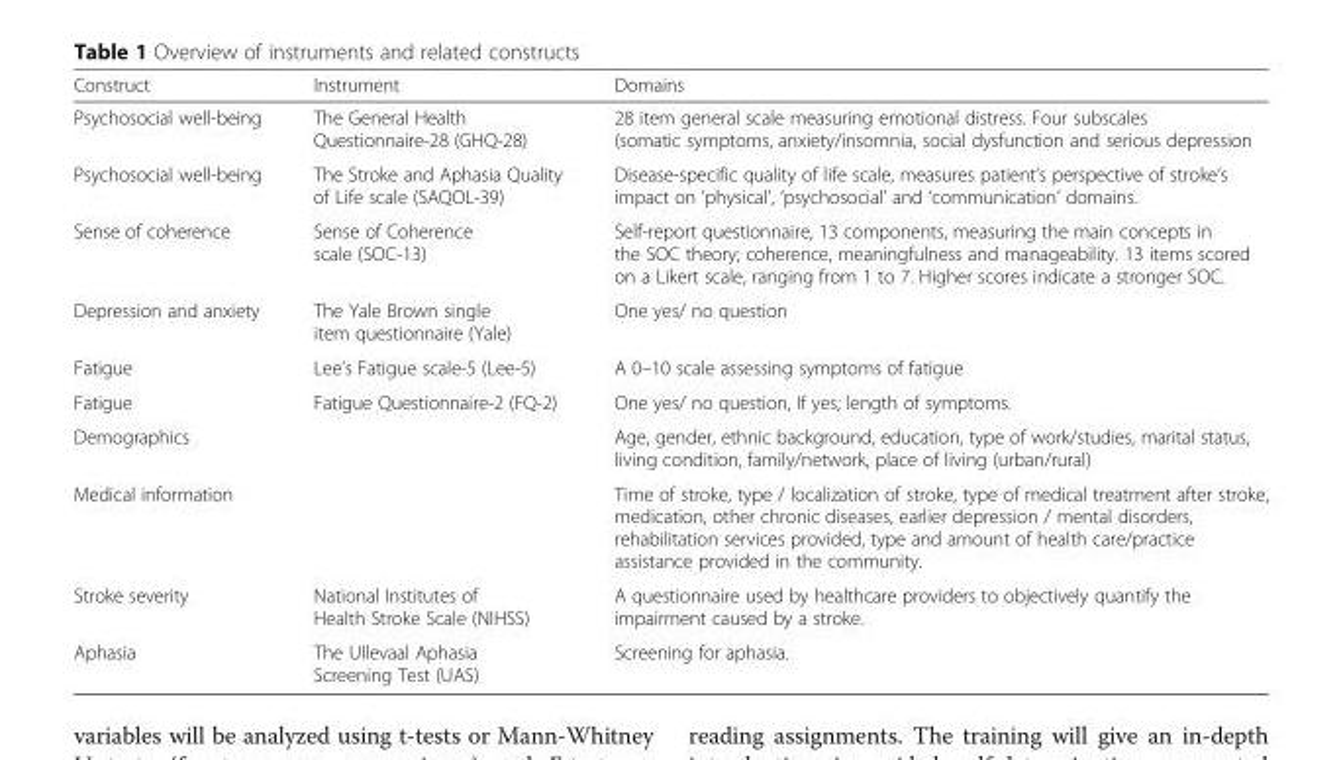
<table><thead><tr><td>Construct</td><td>Instrument</td><td>Domains</td></tr></thead><tbody><tr><td>Psychosocial well-being</td><td>The General Health Questionnaire-28 (GHQ-28)</td><td>28 item general scale measuring emotional distress. Four subscales (somatic symptoms, anxiety/insomnia, social dysfunction and serious depression</td></tr><tr><td>Psychosocial well-being</td><td>The Stroke and Aphasia Quality of Life scale (SAQOL-39)</td><td>Disease-specific quality of life scale, measures patient’s perspective of stroke’s impact on ‘physical’, ‘psychosocial’ and ‘communication’ domains.</td></tr><tr><td>Sense of coherence</td><td>Sense of Coherence scale (SOC-13)</td><td>Self-report questionnaire, 13 components, measuring the main concepts in the SOC theory; coherence, meaningfulness and manageability. 13 items scored on a Likert scale, ranging from 1 to 7. Higher scores indicate a stronger SOC.</td></tr><tr><td>Depression and anxiety</td><td>The Yale Brown single item questionnaire (Yale)</td><td>One yes/ no question</td></tr><tr><td>Fatigue</td><td>Lee’s Fatigue scale-5 (Lee-5)</td><td>A 0–10 scale assessing symptoms of fatigue</td></tr><tr><td>Fatigue</td><td>Fatigue Questionnaire-2 (FQ-2)</td><td>One yes/ no question, If yes; length of symptoms.</td></tr><tr><td>Demographics</td><td></td><td>Age, gender, ethnic background, education, type of work/studies, marital status, living condition, family/network, place of living (urban/rural)</td></tr><tr><td>Medical information</td><td></td><td>Time of stroke, type / localization of stroke, type of medical treatment after stroke, medication, other chronic diseases, earlier depression / mental disorders, rehabilitation services provided, type and amount of health care/practice assistance provided in the community.</td></tr><tr><td>Stroke severity</td><td>National Institutes of Health Stroke Scale (NIHSS)</td><td>A questionnaire used by healthcare providers to objectively quantify the impairment caused by a stroke.</td></tr><tr><td>Aphasia</td><td>The Ullevaal Aphasia Screening Test (UAS)</td><td>Screening for aphasia.</td></tr></tbody></table>